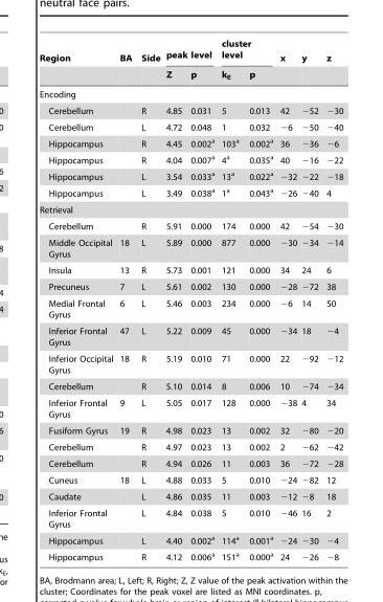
<table><thead><tr><td rowspan="2">Region</td><td rowspan="2">BA</td><td rowspan="2">Side</td><td colspan="2">peak level</td><td colspan="2">cluster level</td><td rowspan="2">x</td><td rowspan="2">y</td><td rowspan="2">z</td></tr><tr><td>Z</td><td>p</td><td>k<sub>E</sub></td><td>p</td></tr></thead><tbody><tr><td colspan="10">Encoding</td></tr><tr><td>Cerebellum</td><td></td><td>R</td><td>4.85</td><td>0.031</td><td>5</td><td>0.013</td><td>42</td><td>−52</td><td>−30</td></tr><tr><td>Cerebellum</td><td></td><td>L</td><td>4.72</td><td>0.048</td><td>1</td><td>0.032</td><td>−6</td><td>−50</td><td>−40</td></tr><tr><td>Hippocampus</td><td></td><td>R</td><td>4.45</td><td>0.002<sup>a</sup></td><td>103<sup>a</sup></td><td>0.002<sup>a</sup></td><td>36</td><td>−36</td><td>−6</td></tr><tr><td>Hippocampus</td><td></td><td>R</td><td>4.04</td><td>0.007<sup>a</sup></td><td>4<sup>a</sup></td><td>0.035<sup>a</sup></td><td>40</td><td>−16</td><td>−22</td></tr><tr><td>Hippocampus</td><td></td><td>L</td><td>3.54</td><td>0.033<sup>a</sup></td><td>13<sup>a</sup></td><td>0.022<sup>a</sup></td><td>−32</td><td>−22</td><td>−18</td></tr><tr><td>Hippocampus</td><td></td><td>L</td><td>3.49</td><td>0.038<sup>a</sup></td><td>1<sup>a</sup></td><td>0.043<sup>a</sup></td><td>−26</td><td>−40</td><td>4</td></tr><tr><td colspan="10">Retrieval</td></tr><tr><td>Cerebellum</td><td></td><td>R</td><td>5.91</td><td>0.000</td><td>174</td><td>0.000</td><td>42</td><td>−54</td><td>−30</td></tr><tr><td>Middle Occipital Gyrus</td><td>18</td><td>L</td><td>5.89</td><td>0.000</td><td>877</td><td>0.000</td><td>−30</td><td>−34</td><td>−14</td></tr><tr><td>Insula</td><td>13</td><td>R</td><td>5.73</td><td>0.001</td><td>121</td><td>0.000</td><td>34</td><td>24</td><td>6</td></tr><tr><td>Precuneus</td><td>7</td><td>L</td><td>5.61</td><td>0.002</td><td>130</td><td>0.000</td><td>−28</td><td>−72</td><td>38</td></tr><tr><td>Medial Frontal Gyrus</td><td>6</td><td>L</td><td>5.46</td><td>0.003</td><td>234</td><td>0.000</td><td>−6</td><td>14</td><td>50</td></tr><tr><td>Inferior Frontal Gyrus</td><td>47</td><td>L</td><td>5.22</td><td>0.009</td><td>45</td><td>0.000</td><td>−34</td><td>18</td><td>−4</td></tr><tr><td>Inferior Occipital Gyrus</td><td>18</td><td>R</td><td>5.19</td><td>0.010</td><td>71</td><td>0.000</td><td>22</td><td>−92</td><td>−12</td></tr><tr><td>Cerebellum</td><td></td><td>R</td><td>5.10</td><td>0.014</td><td>8</td><td>0.006</td><td>10</td><td>−74</td><td>−34</td></tr><tr><td>Inferior Frontal Gyrus</td><td>9</td><td>L</td><td>5.05</td><td>0.017</td><td>128</td><td>0.000</td><td>−38</td><td>4</td><td>34</td></tr><tr><td>Fusiform Gyrus</td><td>19</td><td>R</td><td>4.98</td><td>0.023</td><td>13</td><td>0.002</td><td>32</td><td>−80</td><td>−20</td></tr><tr><td>Cerebellum</td><td></td><td>R</td><td>4.97</td><td>0.023</td><td>13</td><td>0.002</td><td>2</td><td>−62</td><td>−42</td></tr><tr><td>Cerebellum</td><td></td><td>R</td><td>4.94</td><td>0.026</td><td>11</td><td>0.003</td><td>36</td><td>−72</td><td>−28</td></tr><tr><td>Cuneus</td><td>18</td><td>L</td><td>4.88</td><td>0.033</td><td>5</td><td>0.010</td><td>−24</td><td>−82</td><td>12</td></tr><tr><td>Caudate</td><td></td><td>L</td><td>4.86</td><td>0.035</td><td>11</td><td>0.003</td><td>−12</td><td>−8</td><td>18</td></tr><tr><td>Inferior Frontal Gyrus</td><td></td><td>L</td><td>4.84</td><td>0.038</td><td>5</td><td>0.010</td><td>−46</td><td>16</td><td>2</td></tr><tr><td>Hippocampus</td><td></td><td>L</td><td>4.40</td><td>0.002<sup>a</sup></td><td>114<sup>a</sup></td><td>0.001<sup>a</sup></td><td>−24</td><td>−30</td><td>−4</td></tr><tr><td>Hippocampus</td><td></td><td>R</td><td>4.12</td><td>0.006<sup>a</sup></td><td>151<sup>a</sup></td><td>0.000<sup>a</sup></td><td>24</td><td>−26</td><td>−8</td></tr></tbody></table>